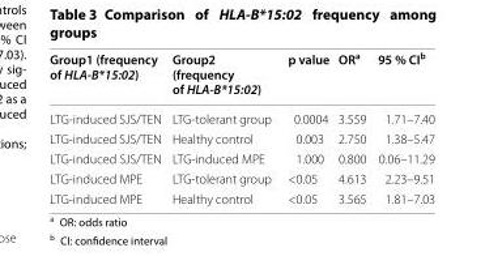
<table><thead><tr><td>Group1 (frequency of HLA-B*15:02)</td><td>Group2 (frequency of HLA-B*15:02)</td><td>p value</td><td>OR<sup>a</sup></td><td>95 % CI<sup>b</sup></td></tr></thead><tbody><tr><td>LTG‑induced SJS/TEN</td><td>LTG‑tolerant group</td><td>0.0004</td><td>3.559</td><td>1.71–7.40</td></tr><tr><td>LTG‑induced SJS/TEN</td><td>Healthy control</td><td>0.003</td><td>2.750</td><td>1.38–5.47</td></tr><tr><td>LTG‑induced SJS/TEN</td><td>LTG‑induced MPE</td><td>1.000</td><td>0.800</td><td>0.06–11.29</td></tr><tr><td>LTG‑induced MPE</td><td>LTG‑tolerant group</td><td>&lt;0.05</td><td>4.613</td><td>2.23–9.51</td></tr><tr><td>LTG‑induced MPE</td><td>Healthy control</td><td>&lt;0.05</td><td>3.565</td><td>1.81–7.03</td></tr></tbody></table>